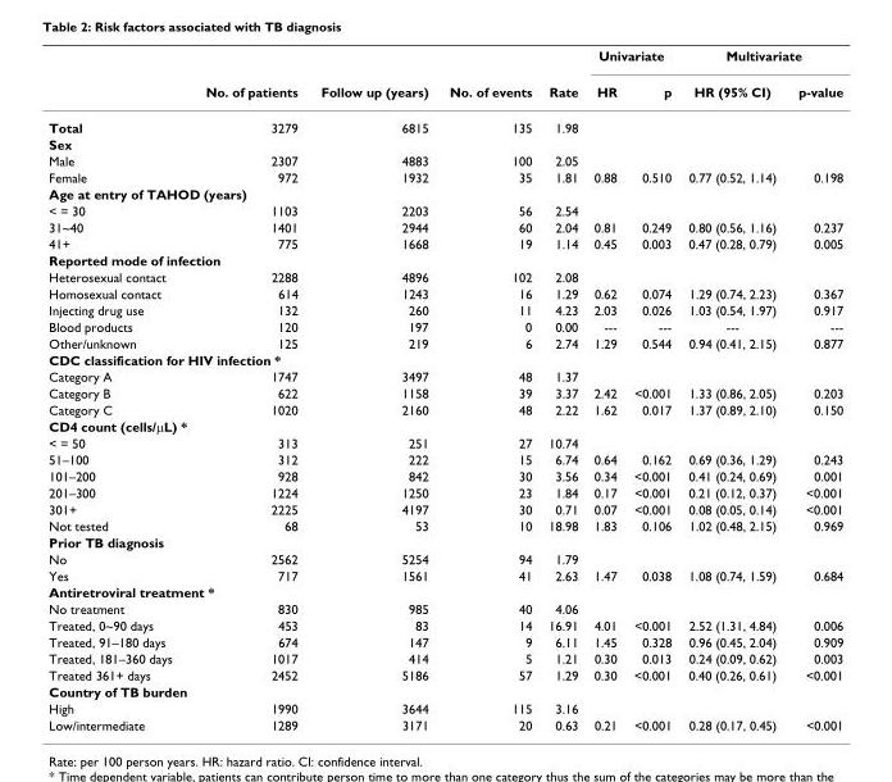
<table><thead><tr><td rowspan="2"></td><td rowspan="2">No. of patients</td><td rowspan="2">Follow up (years)</td><td rowspan="2">No. of events</td><td rowspan="2">Rate</td><td colspan="2">Univariate</td><td colspan="2">Multivariate</td></tr><tr><td>HR</td><td>p</td><td>HR (95% CI)</td><td>p-value</td></tr></thead><tbody><tr><td>Total</td><td>3279</td><td>6815</td><td>135</td><td>1.98</td><td></td><td></td><td></td><td></td></tr><tr><td colspan="9">Sex</td></tr><tr><td>Male</td><td>2307</td><td>4883</td><td>100</td><td>2.05</td><td></td><td></td><td></td><td></td></tr><tr><td>Female</td><td>972</td><td>1932</td><td>35</td><td>1.81</td><td>0.88</td><td>0.510</td><td>0.77 (0.52, 1.14)</td><td>0.198</td></tr><tr><td colspan="9">Age at entry of TAHOD (years)</td></tr><tr><td>&lt; = 30</td><td>1103</td><td>2203</td><td>56</td><td>2.54</td><td></td><td></td><td></td><td></td></tr><tr><td>31~40</td><td>1401</td><td>2944</td><td>60</td><td>2.04</td><td>0.81</td><td>0.249</td><td>0.80 (0.56, 1.16)</td><td>0.237</td></tr><tr><td>41+</td><td>775</td><td>1668</td><td>19</td><td>1.14</td><td>0.45</td><td>0.003</td><td>0.47 (0.28, 0.79)</td><td>0.005</td></tr><tr><td colspan="9">Reported mode of infection</td></tr><tr><td>Heterosexual contact</td><td>2288</td><td>4896</td><td>102</td><td>2.08</td><td></td><td></td><td></td><td></td></tr><tr><td>Homosexual contact</td><td>614</td><td>1243</td><td>16</td><td>1.29</td><td>0.62</td><td>0.074</td><td>1.29 (0.74, 2.23)</td><td>0.367</td></tr><tr><td>Injecting drug use</td><td>132</td><td>260</td><td>11</td><td>4.23</td><td>2.03</td><td>0.026</td><td>1.03 (0.54, 1.97)</td><td>0.917</td></tr><tr><td>Blood products</td><td>120</td><td>197</td><td>0</td><td>0.00</td><td>---</td><td>---</td><td>---</td><td>---</td></tr><tr><td>Other/unknown</td><td>125</td><td>219</td><td>6</td><td>2.74</td><td>1.29</td><td>0.544</td><td>0.94 (0.41, 2.15)</td><td>0.877</td></tr><tr><td colspan="9">CDC classification for HIV infection *</td></tr><tr><td>Category A</td><td>1747</td><td>3497</td><td>48</td><td>1.37</td><td></td><td></td><td></td><td></td></tr><tr><td>Category B</td><td>622</td><td>1158</td><td>39</td><td>3.37</td><td>2.42</td><td>&lt;0.001</td><td>1.33 (0.86, 2.05)</td><td>0.203</td></tr><tr><td>Category C</td><td>1020</td><td>2160</td><td>48</td><td>2.22</td><td>1.62</td><td>0.017</td><td>1.37 (0.89, 2.10)</td><td>0.150</td></tr><tr><td colspan="9">CD4 count (cells/μL) *</td></tr><tr><td>&lt; = 50</td><td>313</td><td>251</td><td>27</td><td>10.74</td><td></td><td></td><td></td><td></td></tr><tr><td>51–100</td><td>312</td><td>222</td><td>15</td><td>6.74</td><td>0.64</td><td>0.162</td><td>0.69 (0.36, 1.29)</td><td>0.243</td></tr><tr><td>101–200</td><td>928</td><td>842</td><td>30</td><td>3.56</td><td>0.34</td><td>&lt;0.001</td><td>0.41 (0.24, 0.69)</td><td>0.001</td></tr><tr><td>201–300</td><td>1224</td><td>1250</td><td>23</td><td>1.84</td><td>0.17</td><td>&lt;0.001</td><td>0.21 (0.12, 0.37)</td><td>&lt;0.001</td></tr><tr><td>301+</td><td>2225</td><td>4197</td><td>30</td><td>0.71</td><td>0.07</td><td>&lt;0.001</td><td>0.08 (0.05, 0.14)</td><td>&lt;0.001</td></tr><tr><td>Not tested</td><td>68</td><td>53</td><td>10</td><td>18.98</td><td>1.83</td><td>0.106</td><td>1.02 (0.48, 2.15)</td><td>0.969</td></tr><tr><td colspan="9">Prior TB diagnosis</td></tr><tr><td>No</td><td>2562</td><td>5254</td><td>94</td><td>1.79</td><td></td><td></td><td></td><td></td></tr><tr><td>Yes</td><td>717</td><td>1561</td><td>41</td><td>2.63</td><td>1.47</td><td>0.038</td><td>1.08 (0.74, 1.59)</td><td>0.684</td></tr><tr><td colspan="9">Antiretroviral treatment *</td></tr><tr><td>No treatment</td><td>830</td><td>985</td><td>40</td><td>4.06</td><td></td><td></td><td></td><td></td></tr><tr><td>Treated, 0~90 days</td><td>453</td><td>83</td><td>14</td><td>16.91</td><td>4.01</td><td>&lt;0.001</td><td>2.52 (1.31, 4.84)</td><td>0.006</td></tr><tr><td>Treated, 91–180 days</td><td>674</td><td>147</td><td>9</td><td>6.11</td><td>1.45</td><td>0.328</td><td>0.96 (0.45, 2.04)</td><td>0.909</td></tr><tr><td>Treated, 181–360 days</td><td>1017</td><td>414</td><td>5</td><td>1.21</td><td>0.30</td><td>0.013</td><td>0.24 (0.09, 0.62)</td><td>0.003</td></tr><tr><td>Treated 361+ days</td><td>2452</td><td>5186</td><td>57</td><td>1.29</td><td>0.30</td><td>&lt;0.001</td><td>0.40 (0.26, 0.61)</td><td>&lt;0.001</td></tr><tr><td colspan="9">Country of TB burden</td></tr><tr><td>High</td><td>1990</td><td>3644</td><td>115</td><td>3.16</td><td></td><td></td><td></td><td></td></tr><tr><td>Low/intermediate</td><td>1289</td><td>3171</td><td>20</td><td>0.63</td><td>0.21</td><td>&lt;0.001</td><td>0.28 (0.17, 0.45)</td><td>&lt;0.001</td></tr></tbody></table>